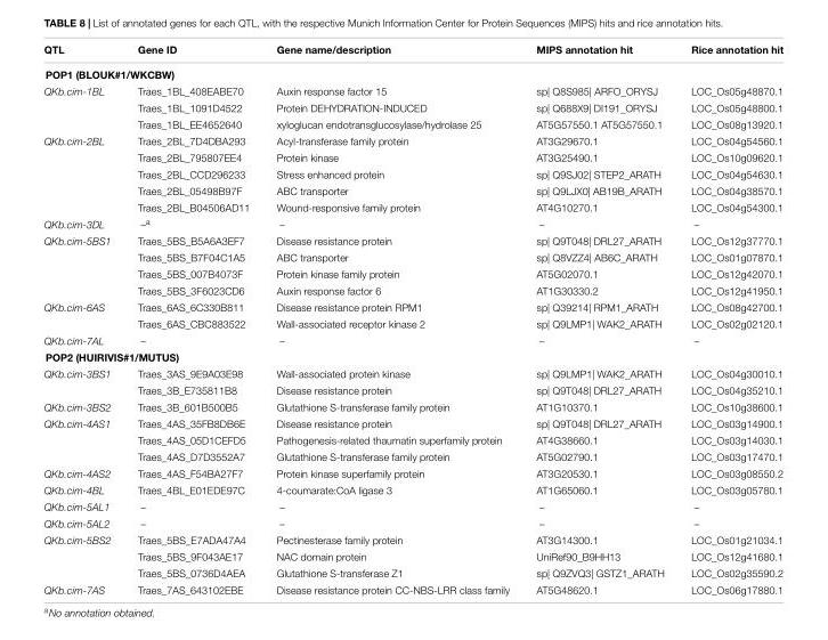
<table><thead><tr><td>QTL</td><td>Gene ID</td><td>Gene name/description</td><td>MIPS annotation hit</td><td>Rice annotation hit</td></tr></thead><tbody><tr><td colspan="5">POP1 (BLOUK#1/WKCBW)</td></tr><tr><td rowspan="3">QKb.cim-1BL</td><td>Traes_1BL_408EABE70</td><td>Auxin response factor 15</td><td>sp| Q8S985| ARFO_ORYSJ</td><td>LOC_Os05g48870.1</td></tr><tr><td>Traes_1BL_1091D4522</td><td>Protein DEHYDRATION-INDUCED</td><td>sp| Q688X9| DI191_ORYSJ</td><td>LOC_Os05g48800.1</td></tr><tr><td>Traes_1BL_EE4652640</td><td>xyloglucan endotransglucosylase/hydrolase 25</td><td>AT5G57550.1 AT5G57550.1</td><td>LOC_Os08g13920.1</td></tr><tr><td rowspan="5">QKb.cim-2BL</td><td>Traes_2BL_7D4DBA293</td><td>Acyl-transferase family protein</td><td>AT3G29670.1</td><td>LOC_Os04g54560.1</td></tr><tr><td>Traes_2BL_795807EE4</td><td>Protein kinase</td><td>AT3G25490.1</td><td>LOC_Os10g09620.1</td></tr><tr><td>Traes_2BL_CCD296233</td><td>Stress enhanced protein</td><td>sp| Q9SJ02| STEP2_ARATH</td><td>LOC_Os04g54630.1</td></tr><tr><td>Traes_2BL_05498B97F</td><td>ABC transporter</td><td>sp| Q9LJX0| AB19B_ARATH</td><td>LOC_Os04g38570.1</td></tr><tr><td>Traes_2BL_B04506AD11</td><td>Wound-responsive family protein</td><td>AT4G10270.1</td><td>LOC_Os04g54300.1</td></tr><tr><td>QKb.cim-3DL</td><td>–<sup>a</sup></td><td>–</td><td>–</td><td>–</td></tr><tr><td rowspan="4">QKb.cim-5BS1</td><td>Traes_5BS_B5A6A3EF7</td><td>Disease resistance protein</td><td>sp| Q9T048| DRL27_ARATH</td><td>LOC_Os12g37770.1</td></tr><tr><td>Traes_5BS_B7F04C1A5</td><td>ABC transporter</td><td>sp| Q8VZZ4| AB6C_ARATH</td><td>LOC_Os01g07870.1</td></tr><tr><td>Traes_5BS_007B4073F</td><td>Protein kinase family protein</td><td>AT5G02070.1</td><td>LOC_Os12g42070.1</td></tr><tr><td>Traes_5BS_3F6023CD6</td><td>Auxin response factor 6</td><td>AT1G30330.2</td><td>LOC_Os12g41950.1</td></tr><tr><td rowspan="2">QKb.cim-6AS</td><td>Traes_6AS_6C330B811</td><td>Disease resistance protein RPM1</td><td>sp| Q39214| RPM1_ARATH</td><td>LOC_Os08g42700.1</td></tr><tr><td>Traes_6AS_CBC883522</td><td>Wall-associated receptor kinase 2</td><td>sp| Q9LMP1| WAK2_ARATH</td><td>LOC_Os02g02120.1</td></tr><tr><td>QKb.cim-7AL</td><td>–</td><td>–</td><td>–</td><td>–</td></tr><tr><td colspan="5">POP2 (HUIRIVIS#1/MUTUS)</td></tr><tr><td rowspan="2">QKb.cim-3BS1</td><td>Traes_3AS_9E9A03E98</td><td>Wall-associated protein kinase</td><td>sp| Q9LMP1| WAK2_ARATH</td><td>LOC_Os04g30010.1</td></tr><tr><td>Traes_3B_E735811B8</td><td>Disease resistance protein</td><td>sp| Q9T048| DRL27_ARATH</td><td>LOC_Os04g35210.1</td></tr><tr><td>QKb.cim-3BS2</td><td>Traes_3B_601B500B5</td><td>Glutathione S-transferase family protein</td><td>AT1G10370.1</td><td>LOC_Os10g38600.1</td></tr><tr><td rowspan="3">QKb.cim-4AS1</td><td>Traes_4AS_35FB8DB6E</td><td>Disease resistance protein</td><td>sp| Q9T048| DRL27_ARATH</td><td>LOC_Os03g14900.1</td></tr><tr><td>Traes_4AS_05D1CEFD5</td><td>Pathogenesis-related thaumatin superfamily protein</td><td>AT4G38660.1</td><td>LOC_Os03g14030.1</td></tr><tr><td>Traes_4AS_D7D3552A7</td><td>Glutathione S-transferase family protein</td><td>AT5G02790.1</td><td>LOC_Os03g17470.1</td></tr><tr><td>QKb.cim-4AS2</td><td>Traes_4AS_F54BA27F7</td><td>Protein kinase superfamily protein</td><td>AT3G20530.1</td><td>LOC_Os03g08550.2</td></tr><tr><td>QKb.cim-4BL</td><td>Traes_4BL_E01EDE97C</td><td>4-coumarate:CoA ligase 3</td><td>AT1G65060.1</td><td>LOC_Os03g05780.1</td></tr><tr><td>QKb.cim-5AL1</td><td>–</td><td>–</td><td>–</td><td>–</td></tr><tr><td>QKb.cim-5AL2</td><td>–</td><td>–</td><td>–</td><td>–</td></tr><tr><td rowspan="3">QKb.cim-5BS2</td><td>Traes_5BS_E7ADA47A4</td><td>Pectinesterase family protein</td><td>AT3G14300.1</td><td>LOC_Os01g21034.1</td></tr><tr><td>Traes_5BS_9F043AE17</td><td>NAC domain protein</td><td>UniRef90_B9HH13</td><td>LOC_Os12g41680.1</td></tr><tr><td>Traes_5BS_0736D4AEA</td><td>Glutathione S-transferase Z1</td><td>sp| Q9ZVQ3| GSTZ1_ARATH</td><td>LOC_Os02g35590.2</td></tr><tr><td>QKb.cim-7AS</td><td>Traes_7AS_643102EBE</td><td>Disease resistance protein CC-NBS-LRR class family</td><td>AT5G48620.1</td><td>LOC_Os06g17880.1</td></tr></tbody></table>